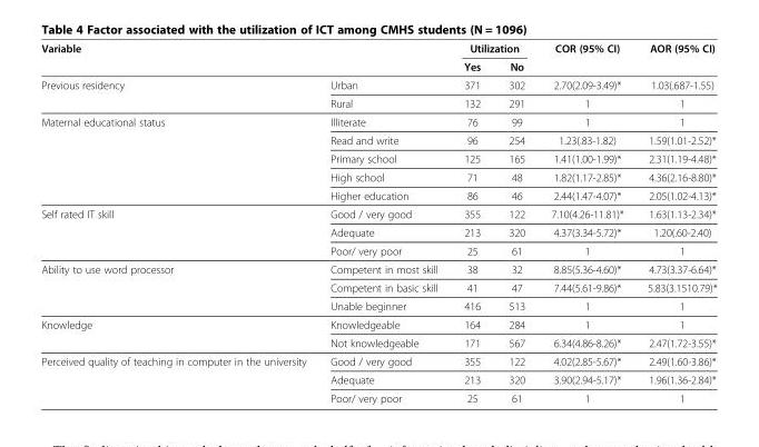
<table><thead><tr><td rowspan="2">Variable</td><td rowspan="2"></td><td colspan="2">Utilization</td><td rowspan="2">COR (95% CI)</td><td rowspan="2">AOR (95% CI)</td></tr><tr><td>Yes</td><td>No</td></tr></thead><tbody><tr><td rowspan="2">Previous residency</td><td>Urban</td><td>371</td><td>302</td><td>2.70(2.09-3.49)*</td><td>1.03(.687-1.55)</td></tr><tr><td>Rural</td><td>132</td><td>291</td><td>1</td><td>1</td></tr><tr><td rowspan="5">Maternal educational status</td><td>Illiterate</td><td>76</td><td>99</td><td>1</td><td>1</td></tr><tr><td>Read and write</td><td>96</td><td>254</td><td>1.23(.83-1.82)</td><td>1.59(1.01-2.52)*</td></tr><tr><td>Primary school</td><td>125</td><td>165</td><td>1.41(1.00-1.99)*</td><td>2.31(1.19-4.48)*</td></tr><tr><td>High school</td><td>71</td><td>48</td><td>1.82(1.17-2.85)*</td><td>4.36(2.16-8.80)*</td></tr><tr><td>Higher education</td><td>86</td><td>46</td><td>2.44(1.47-4.07)*</td><td>2.05(1.02-4.13)*</td></tr><tr><td rowspan="3">Self rated IT skill</td><td>Good / very good</td><td>355</td><td>122</td><td>7.10(4.26-11.81)*</td><td>1.63(1.13-2.34)*</td></tr><tr><td>Adequate</td><td>213</td><td>320</td><td>4.37(3.34-5.72)*</td><td>1.20(.60-2.40)</td></tr><tr><td>Poor/ very poor</td><td>25</td><td>61</td><td>1</td><td>1</td></tr><tr><td rowspan="3">Ability to use word processor</td><td>Competent in most skill</td><td>38</td><td>32</td><td>8.85(5.36-4.60)*</td><td>4.73(3.37-6.64)*</td></tr><tr><td>Competent in basic skill</td><td>41</td><td>47</td><td>7.44(5.61-9.86)*</td><td>5.83(3.1510.79)*</td></tr><tr><td>Unable beginner</td><td>416</td><td>513</td><td>1</td><td>1</td></tr><tr><td rowspan="2">Knowledge</td><td>Knowledgeable</td><td>164</td><td>284</td><td>1</td><td>1</td></tr><tr><td>Not knowledgeable</td><td>171</td><td>567</td><td>6.34(4.86-8.26)*</td><td>2.47(1.72-3.55)*</td></tr><tr><td rowspan="3">Perceived quality of teaching in computer in the university</td><td>Good / very good</td><td>355</td><td>122</td><td>4.02(2.85-5.67)*</td><td>2.49(1.60-3.86)*</td></tr><tr><td>Adequate</td><td>213</td><td>320</td><td>3.90(2.94-5.17)*</td><td>1.96(1.36-2.84)*</td></tr><tr><td>Poor/ very poor</td><td>25</td><td>61</td><td>1</td><td>1</td></tr></tbody></table>